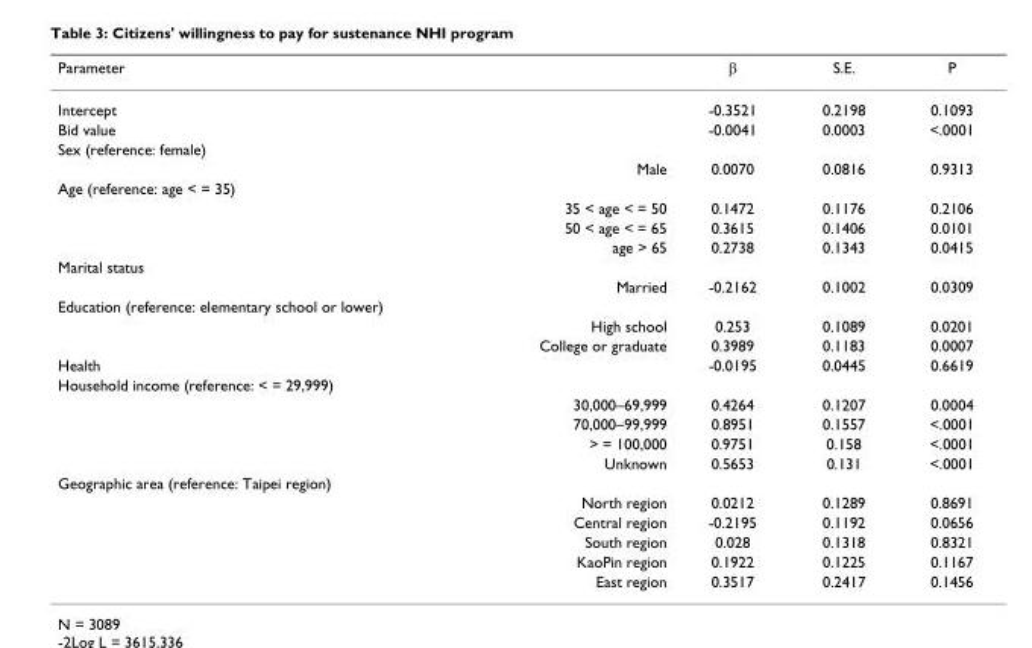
<table><thead><tr><td>Parameter</td><td>β</td><td>S.E.</td><td>P</td></tr></thead><tbody><tr><td>Intercept</td><td>-0.3521</td><td>0.2198</td><td>0.1093</td></tr><tr><td>Bid value</td><td>-0.0041</td><td>0.0003</td><td>&lt;.0001</td></tr><tr><td colspan="4">Sex (reference: female)</td></tr><tr><td>Male</td><td>0.0070</td><td>0.0816</td><td>0.9313</td></tr><tr><td colspan="4">Age (reference: age &lt; = 35)</td></tr><tr><td>35 &lt; age &lt; = 50</td><td>0.1472</td><td>0.1176</td><td>0.2106</td></tr><tr><td>50 &lt; age &lt; = 65</td><td>0.3615</td><td>0.1406</td><td>0.0101</td></tr><tr><td>age &gt; 65</td><td>0.2738</td><td>0.1343</td><td>0.0415</td></tr><tr><td colspan="4">Marital status</td></tr><tr><td>Married</td><td>-0.2162</td><td>0.1002</td><td>0.0309</td></tr><tr><td colspan="4">Education (reference: elementary school or lower)</td></tr><tr><td>High school</td><td>0.253</td><td>0.1089</td><td>0.0201</td></tr><tr><td>College or graduate</td><td>0.3989</td><td>0.1183</td><td>0.0007</td></tr><tr><td>Health</td><td>-0.0195</td><td>0.0445</td><td>0.6619</td></tr><tr><td colspan="4">Household income (reference: &lt; = 29,999)</td></tr><tr><td>30,000–69,999</td><td>0.4264</td><td>0.1207</td><td>0.0004</td></tr><tr><td>70,000–99,999</td><td>0.8951</td><td>0.1557</td><td>&lt;.0001</td></tr><tr><td>&gt; = 100,000</td><td>0.9751</td><td>0.158</td><td>&lt;.0001</td></tr><tr><td>Unknown</td><td>0.5653</td><td>0.131</td><td>&lt;.0001</td></tr><tr><td colspan="4">Geographic area (reference: Taipei region)</td></tr><tr><td>North region</td><td>0.0212</td><td>0.1289</td><td>0.8691</td></tr><tr><td>Central region</td><td>-0.2195</td><td>0.1192</td><td>0.0656</td></tr><tr><td>South region</td><td>0.028</td><td>0.1318</td><td>0.8321</td></tr><tr><td>KaoPin region</td><td>0.1922</td><td>0.1225</td><td>0.1167</td></tr><tr><td>East region</td><td>0.3517</td><td>0.2417</td><td>0.1456</td></tr></tbody></table>